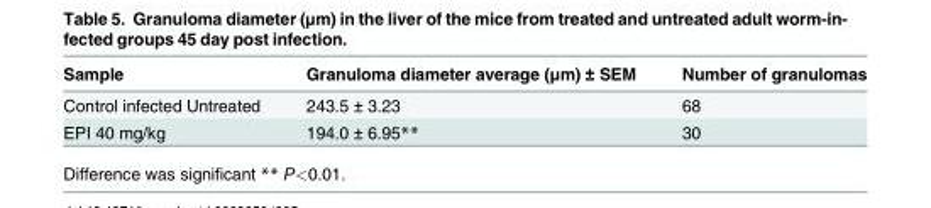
<table><thead><tr><td>Sample</td><td>Granuloma diameter average (μm) ± SEM</td><td>Number of granulomas</td></tr></thead><tbody><tr><td>Control infected Untreated</td><td>243.5 ± 3.23</td><td>68</td></tr><tr><td>EPI 40 mg/kg</td><td>194.0 ± 6.95**</td><td>30</td></tr></tbody></table>